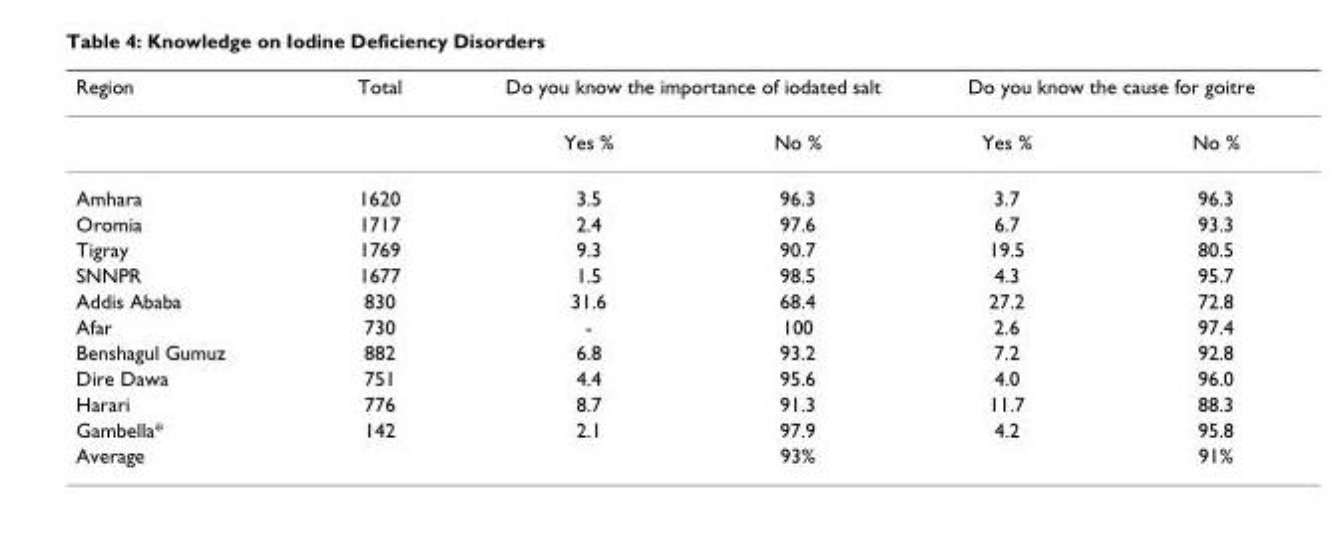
<table><thead><tr><td rowspan="2">Region</td><td rowspan="2">Total</td><td colspan="2">Do you know the importance of iodated salt</td><td colspan="2">Do you know the cause for goitre</td></tr><tr><td>Yes %</td><td>No %</td><td>Yes %</td><td>No %</td></tr></thead><tbody><tr><td>Amhara</td><td>1620</td><td>3.5</td><td>96.3</td><td>3.7</td><td>96.3</td></tr><tr><td>Oromia</td><td>1717</td><td>2.4</td><td>97.6</td><td>6.7</td><td>93.3</td></tr><tr><td>Tigray</td><td>1769</td><td>9.3</td><td>90.7</td><td>19.5</td><td>80.5</td></tr><tr><td>SNNPR</td><td>1677</td><td>1.5</td><td>98.5</td><td>4.3</td><td>95.7</td></tr><tr><td>Addis Ababa</td><td>830</td><td>31.6</td><td>68.4</td><td>27.2</td><td>72.8</td></tr><tr><td>Afar</td><td>730</td><td>-</td><td>100</td><td>2.6</td><td>97.4</td></tr><tr><td>Benshagul Gumuz</td><td>882</td><td>6.8</td><td>93.2</td><td>7.2</td><td>92.8</td></tr><tr><td>Dire Dawa</td><td>751</td><td>4.4</td><td>95.6</td><td>4.0</td><td>96.0</td></tr><tr><td>Harari</td><td>776</td><td>8.7</td><td>91.3</td><td>11.7</td><td>88.3</td></tr><tr><td>Gambella*</td><td>142</td><td>2.1</td><td>97.9</td><td>4.2</td><td>95.8</td></tr><tr><td>Average</td><td></td><td></td><td>93%</td><td></td><td>91%</td></tr></tbody></table>